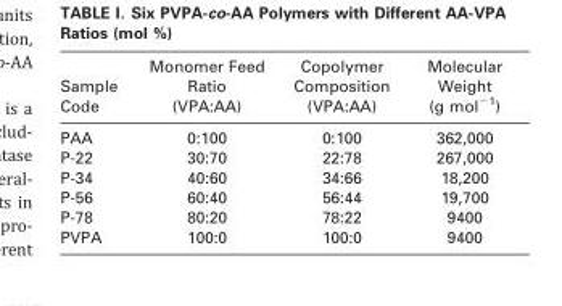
<table><thead><tr><td>Sample Code</td><td>Monomer Feed Ratio (VPA:AA)</td><td>Copolymer Composition (VPA:AA)</td><td>Molecular Weight (g mol<sup>−1</sup>)</td></tr></thead><tbody><tr><td>PAA</td><td>0:100</td><td>0:100</td><td>362,000</td></tr><tr><td>P-22</td><td>30:70</td><td>22:78</td><td>267,000</td></tr><tr><td>P-34</td><td>40:60</td><td>34:66</td><td>18,200</td></tr><tr><td>P-56</td><td>60:40</td><td>56:44</td><td>19,700</td></tr><tr><td>P-78</td><td>80:20</td><td>78:22</td><td>9400</td></tr><tr><td>PVPA</td><td>100:0</td><td>100:0</td><td>9400</td></tr></tbody></table>